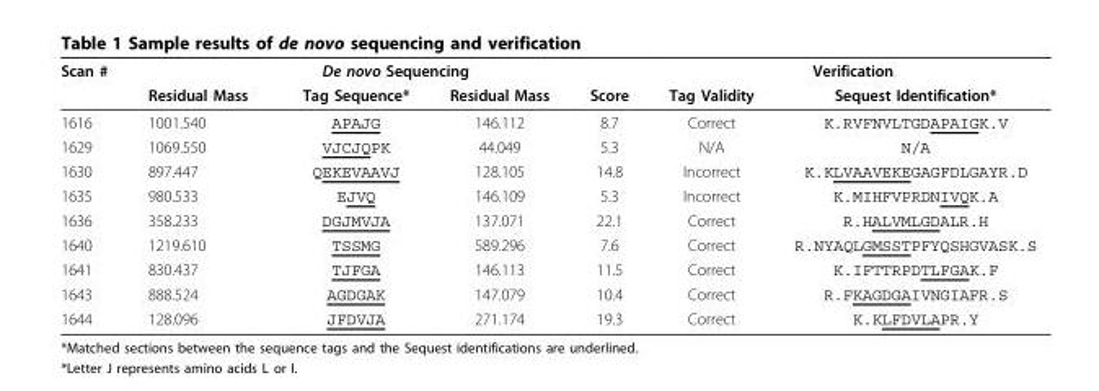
<table><thead><tr><td rowspan="2">Scan #</td><td colspan="4">De novo Sequencing</td><td colspan="2">Verification</td></tr><tr><td>Residual Mass</td><td>Tag Sequence*</td><td>Residual Mass</td><td>Score</td><td>Tag Validity</td><td>Sequest Identification*</td></tr></thead><tbody><tr><td>1616</td><td>1001.540</td><td>APAJG</td><td>146.112</td><td>8.7</td><td>Correct</td><td>K.RVFNVLTGDAPAIGK.V</td></tr><tr><td>1629</td><td>1069.550</td><td>VJCJQPK</td><td>44.049</td><td>5.3</td><td>N/A</td><td>N/A</td></tr><tr><td>1630</td><td>897.447</td><td>QEKEVAAVJ</td><td>128.105</td><td>14.8</td><td>Incorrect</td><td>K.KLVAAVEKEGAGFDLGAYR.D</td></tr><tr><td>1635</td><td>980.533</td><td>EJVQ</td><td>146.109</td><td>5.3</td><td>Incorrect</td><td>K.MIHFVPRDNIVQK.A</td></tr><tr><td>1636</td><td>358.233</td><td>DGJMVJA</td><td>137.071</td><td>22.1</td><td>Correct</td><td>R.HALVMLGDALR.H</td></tr><tr><td>1640</td><td>1219.610</td><td>TSSMG</td><td>589.296</td><td>7.6</td><td>Correct</td><td>R.NYAQLGMSSTPFYQSHGVASK.S</td></tr><tr><td>1641</td><td>830.437</td><td>TJFGA</td><td>146.113</td><td>11.5</td><td>Correct</td><td>K.IFTTRPDTLFGAK.F</td></tr><tr><td>1643</td><td>888.524</td><td>AGDGAK</td><td>147.079</td><td>10.4</td><td>Correct</td><td>R.FKAGDGAIVNGIAFR.S</td></tr><tr><td>1644</td><td>128.096</td><td>JFDVJA</td><td>271.174</td><td>19.3</td><td>Correct</td><td>K.KLFDVLAPR.Y</td></tr></tbody></table>